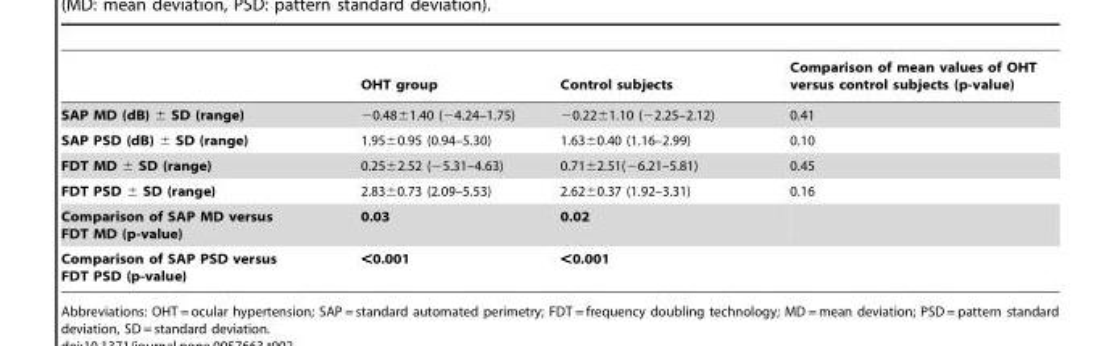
<table><thead><tr><td></td><td>OHT group</td><td>Control subjects</td><td>Comparison of mean values of OHT versus control subjects (p-value)</td></tr></thead><tbody><tr><td>SAP MD (dB) ± SD (range)</td><td>−0.48±1.40 (−4.24–1.75)</td><td>−0.22±1.10 (−2.25–2.12)</td><td>0.41</td></tr><tr><td>SAP PSD (dB) ± SD (range)</td><td>1.95±0.95 (0.94–5.30)</td><td>1.63±0.40 (1.16–2.99)</td><td>0.10</td></tr><tr><td>FDT MD ± SD (range)</td><td>0.25±2.52 (−5.31–4.63)</td><td>0.71±2.51(−6.21–5.81)</td><td>0.45</td></tr><tr><td>FDT PSD ± SD (range)</td><td>2.83±0.73 (2.09–5.53)</td><td>2.62±0.37 (1.92–3.31)</td><td>0.16</td></tr><tr><td>Comparison of SAP MD versus FDT MD (p-value)</td><td>0.03</td><td>0.02</td><td></td></tr><tr><td>Comparison of SAP PSD versus FDT PSD (p-value)</td><td>&lt;0.001</td><td>&lt;0.001</td><td></td></tr></tbody></table>